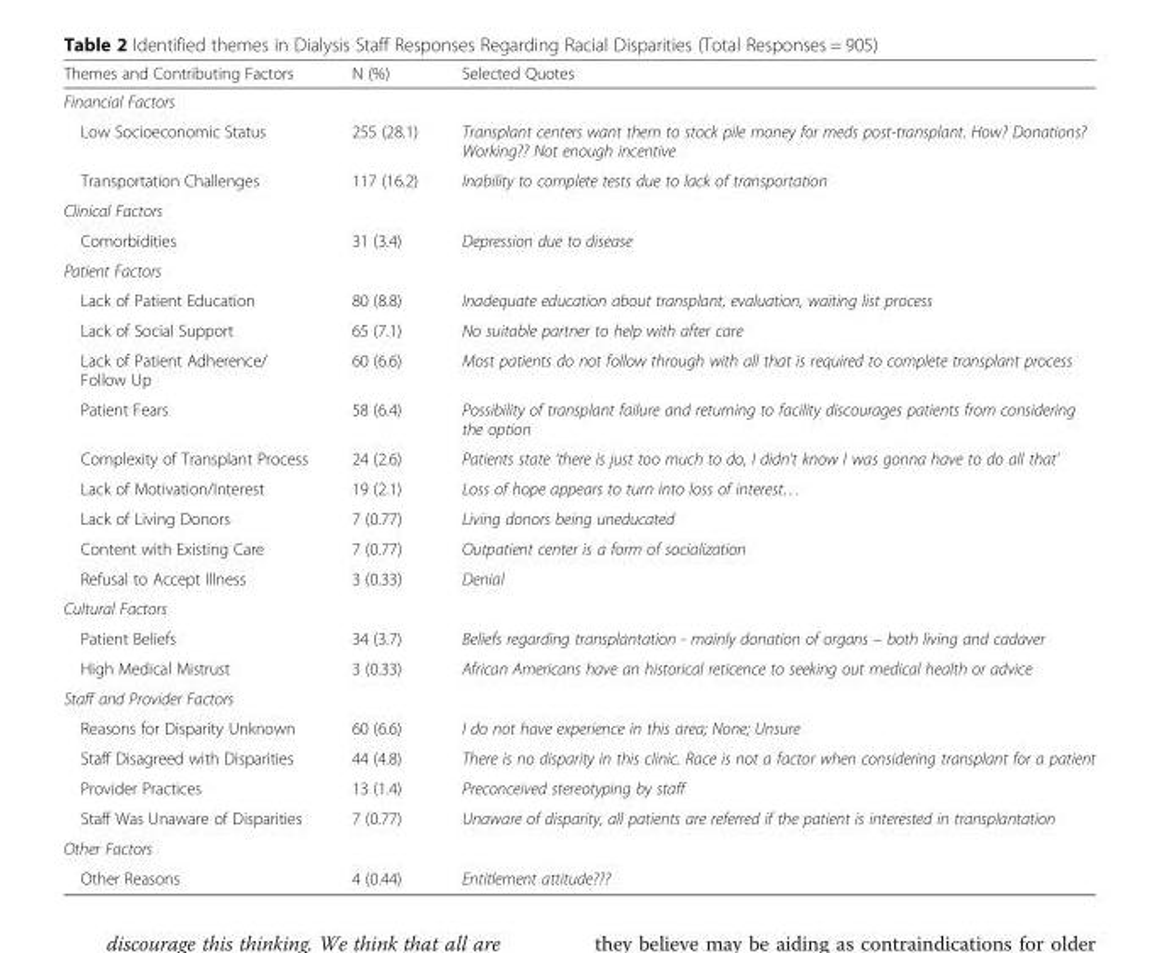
<table><thead><tr><td>Themes and Contributing Factors</td><td>N (%)</td><td>Selected Quotes</td></tr></thead><tbody><tr><td colspan="3">Financial Factors</td></tr><tr><td>Low Socioeconomic Status</td><td>255 (28.1)</td><td>Transplant centers want them to stock pile money for meds post-transplant. How? Donations? Working?? Not enough incentive</td></tr><tr><td>Transportation Challenges</td><td>117 (16.2)</td><td>Inability to complete tests due to lack of transportation</td></tr><tr><td colspan="3">Clinical Factors</td></tr><tr><td>Comorbidities</td><td>31 (3.4)</td><td>Depression due to disease</td></tr><tr><td colspan="3">Patient Factors</td></tr><tr><td>Lack of Patient Education</td><td>80 (8.8)</td><td>Inadequate education about transplant, evaluation, waiting list process</td></tr><tr><td>Lack of Social Support</td><td>65 (7.1)</td><td>No suitable partner to help with after care</td></tr><tr><td>Lack of Patient Adherence/ Follow Up</td><td>60 (6.6)</td><td>Most patients do not follow through with all that is required to complete transplant process</td></tr><tr><td>Patient Fears</td><td>58 (6.4)</td><td>Possibility of transplant failure and returning to facility discourages patients from considering the option</td></tr><tr><td>Complexity of Transplant Process</td><td>24 (2.6)</td><td>Patients state ‘there is just too much to do, I didn’t know I was gonna have to do all that’</td></tr><tr><td>Lack of Motivation/Interest</td><td>19 (2.1)</td><td>Loss of hope appears to turn into loss of interest…</td></tr><tr><td>Lack of Living Donors</td><td>7 (0.77)</td><td>Living donors being uneducated</td></tr><tr><td>Content with Existing Care</td><td>7 (0.77)</td><td>Outpatient center is a form of socialization</td></tr><tr><td>Refusal to Accept Illness</td><td>3 (0.33)</td><td>Denial</td></tr><tr><td colspan="3">Cultural Factors</td></tr><tr><td>Patient Beliefs</td><td>34 (3.7)</td><td>Beliefs regarding transplantation - mainly donation of organs – both living and cadaver</td></tr><tr><td>High Medical Mistrust</td><td>3 (0.33)</td><td>African Americans have an historical reticence to seeking out medical health or advice</td></tr><tr><td colspan="3">Staff and Provider Factors</td></tr><tr><td>Reasons for Disparity Unknown</td><td>60 (6.6)</td><td>I do not have experience in this area; None; Unsure</td></tr><tr><td>Staff Disagreed with Disparities</td><td>44 (4.8)</td><td>There is no disparity in this clinic. Race is not a factor when considering transplant for a patient</td></tr><tr><td>Provider Practices</td><td>13 (1.4)</td><td>Preconceived stereotyping by staff</td></tr><tr><td>Staff Was Unaware of Disparities</td><td>7 (0.77)</td><td>Unaware of disparity, all patients are referred if the patient is interested in transplantation</td></tr><tr><td colspan="3">Other Factors</td></tr><tr><td>Other Reasons</td><td>4 (0.44)</td><td>Entitlement attitude???</td></tr></tbody></table>